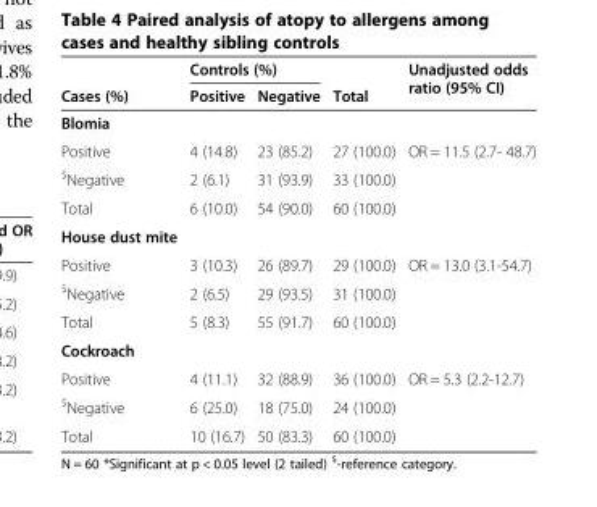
<table><thead><tr><td rowspan="2">Cases (%)</td><td colspan="2">Controls (%)</td><td rowspan="2">Total</td><td rowspan="2">Unadjusted odds ratio (95% CI)</td></tr><tr><td>Positive</td><td>Negative</td></tr></thead><tbody><tr><td colspan="5">Blomia</td></tr><tr><td>Positive</td><td>4 (14.8)</td><td>23 (85.2)</td><td>27 (100.0)</td><td>OR = 11.5 (2.7- 48.7)</td></tr><tr><td><sup>$</sup>Negative</td><td>2 (6.1)</td><td>31 (93.9)</td><td>33 (100.0)</td><td></td></tr><tr><td>Total</td><td>6 (10.0)</td><td>54 (90.0)</td><td>60 (100.0)</td><td></td></tr><tr><td colspan="5">House dust mite</td></tr><tr><td>Positive</td><td>3 (10.3)</td><td>26 (89.7)</td><td>29 (100.0)</td><td>OR = 13.0 (3.1-54.7)</td></tr><tr><td><sup>$</sup>Negative</td><td>2 (6.5)</td><td>29 (93.5)</td><td>31 (100.0)</td><td></td></tr><tr><td>Total</td><td>5 (8.3)</td><td>55 (91.7)</td><td>60 (100.0)</td><td></td></tr><tr><td colspan="5">Cockroach</td></tr><tr><td>Positive</td><td>4 (11.1)</td><td>32 (88.9)</td><td>36 (100.0)</td><td>OR = 5.3 (2.2-12.7)</td></tr><tr><td><sup>$</sup>Negative</td><td>6 (25.0)</td><td>18 (75.0)</td><td>24 (100.0)</td><td></td></tr><tr><td>Total</td><td>10 (16.7)</td><td>50 (83.3)</td><td>60 (100.0)</td><td></td></tr></tbody></table>